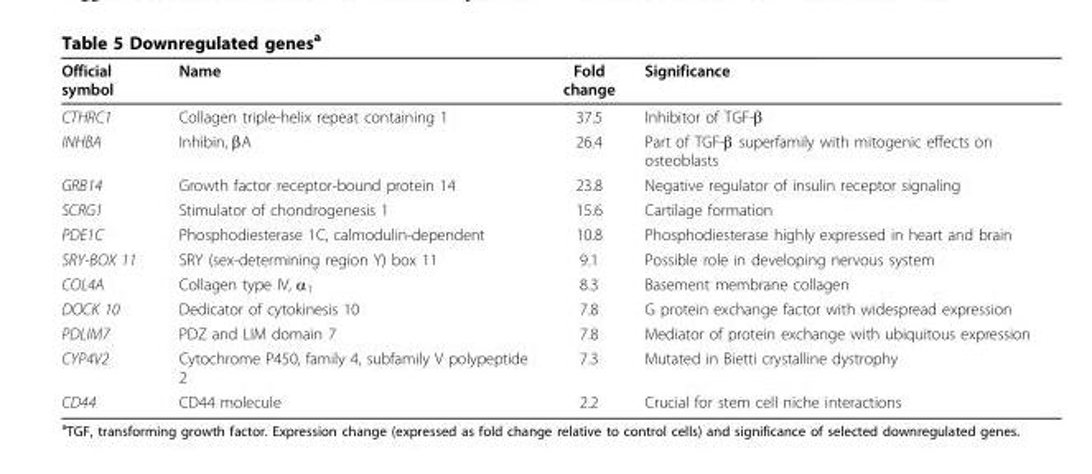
<table><thead><tr><td>Official symbol</td><td>Name</td><td>Fold change</td><td>Significance</td></tr></thead><tbody><tr><td>CTHRC1</td><td>Collagen triple-helix repeat containing 1</td><td>37.5</td><td>Inhibitor of TGF-β</td></tr><tr><td>INHBA</td><td>Inhibin, βA</td><td>26.4</td><td>Part of TGF-β superfamily with mitogenic effects on osteoblasts</td></tr><tr><td>GRB14</td><td>Growth factor receptor-bound protein 14</td><td>23.8</td><td>Negative regulator of insulin receptor signaling</td></tr><tr><td>SCRG1</td><td>Stimulator of chondrogenesis 1</td><td>15.6</td><td>Cartilage formation</td></tr><tr><td>PDE1C</td><td>Phosphodiesterase 1C, calmodulin-dependent</td><td>10.8</td><td>Phosphodiesterase highly expressed in heart and brain</td></tr><tr><td>SRY-BOX 11</td><td>SRY (sex-determining region Y) box 11</td><td>9.1</td><td>Possible role in developing nervous system</td></tr><tr><td>COL4A</td><td>Collagen type IV, α<sub>1</sub></td><td>8.3</td><td>Basement membrane collagen</td></tr><tr><td>DOCK 10</td><td>Dedicator of cytokinesis 10</td><td>7.8</td><td>G protein exchange factor with widespread expression</td></tr><tr><td>PDLIM7</td><td>PDZ and LIM domain 7</td><td>7.8</td><td>Mediator of protein exchange with ubiquitous expression</td></tr><tr><td>CYP4V2</td><td>Cytochrome P450, family 4, subfamily V polypeptide 2</td><td>7.3</td><td>Mutated in Bietti crystalline dystrophy</td></tr><tr><td>CD44</td><td>CD44 molecule</td><td>2.2</td><td>Crucial for stem cell niche interactions</td></tr></tbody></table>